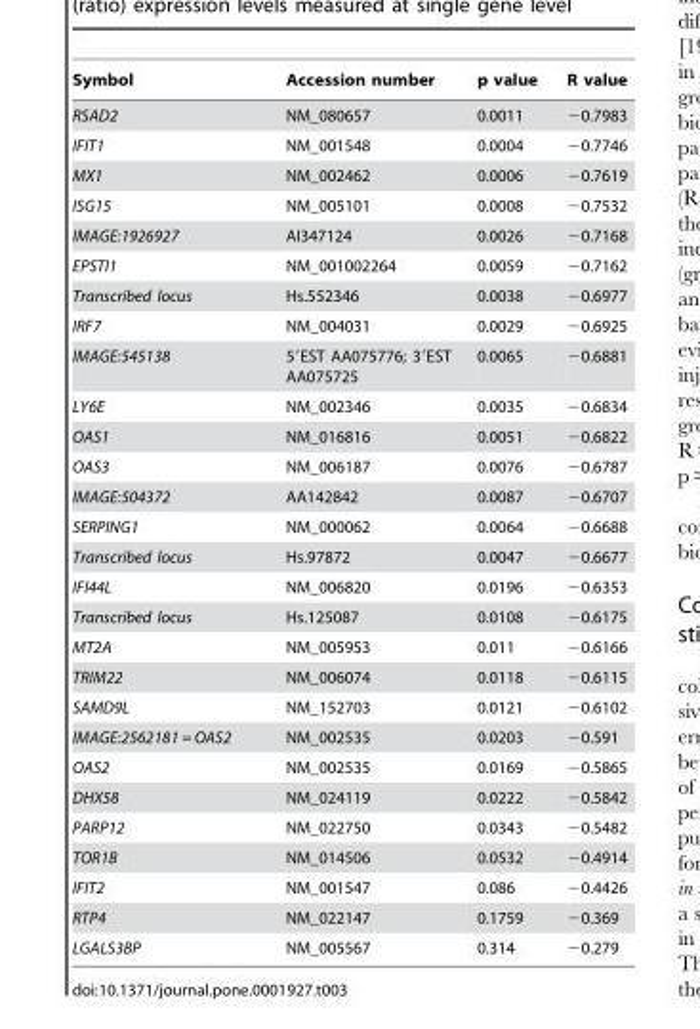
<table><thead><tr><td>Symbol</td><td>Accession number</td><td>p value</td><td>R value</td></tr></thead><tbody><tr><td>RSAD2</td><td>NM_080657</td><td>0.0011</td><td>−0.7983</td></tr><tr><td>IFIT1</td><td>NM_001548</td><td>0.0004</td><td>−0.7746</td></tr><tr><td>MX1</td><td>NM_002462</td><td>0.0006</td><td>−0.7619</td></tr><tr><td>ISG15</td><td>NM_005101</td><td>0.0008</td><td>−0.7532</td></tr><tr><td>IMAGE:1926927</td><td>AI347124</td><td>0.0026</td><td>−0.7168</td></tr><tr><td>EPSTI1</td><td>NM_001002264</td><td>0.0059</td><td>−0.7162</td></tr><tr><td>Transcribed locus</td><td>Hs.552346</td><td>0.0038</td><td>−0.6977</td></tr><tr><td>IRF7</td><td>NM_004031</td><td>0.0029</td><td>−0.6925</td></tr><tr><td>IMAGE:545138</td><td>5′EST AA075776; 3′EST AA075725</td><td>0.0065</td><td>−0.6881</td></tr><tr><td>LY6E</td><td>NM_002346</td><td>0.0035</td><td>−0.6834</td></tr><tr><td>OAS1</td><td>NM_016816</td><td>0.0051</td><td>−0.6822</td></tr><tr><td>OAS3</td><td>NM_006187</td><td>0.0076</td><td>−0.6787</td></tr><tr><td>IMAGE:504372</td><td>AA142842</td><td>0.0087</td><td>−0.6707</td></tr><tr><td>SERPING1</td><td>NM_000062</td><td>0.0064</td><td>−0.6688</td></tr><tr><td>Transcribed locus</td><td>Hs.97872</td><td>0.0047</td><td>−0.6677</td></tr><tr><td>IFI44L</td><td>NM_006820</td><td>0.0196</td><td>−0.6353</td></tr><tr><td>Transcribed locus</td><td>Hs.125087</td><td>0.0108</td><td>−0.6175</td></tr><tr><td>MT2A</td><td>NM_005953</td><td>0.011</td><td>−0.6166</td></tr><tr><td>TRIM22</td><td>NM_006074</td><td>0.0118</td><td>−0.6115</td></tr><tr><td>SAMD9L</td><td>NM_152703</td><td>0.0121</td><td>−0.6102</td></tr><tr><td>IMAGE:2562181 = OAS2</td><td>NM_002535</td><td>0.0203</td><td>−0.591</td></tr><tr><td>OAS2</td><td>NM_002535</td><td>0.0169</td><td>−0.5865</td></tr><tr><td>DHX58</td><td>NM_024119</td><td>0.0222</td><td>−0.5842</td></tr><tr><td>PARP12</td><td>NM_022750</td><td>0.0343</td><td>−0.5482</td></tr><tr><td>TOR1B</td><td>NM_014506</td><td>0.0532</td><td>−0.4914</td></tr><tr><td>IFIT2</td><td>NM_001547</td><td>0.086</td><td>−0.4426</td></tr><tr><td>RTP4</td><td>NM_022147</td><td>0.1759</td><td>−0.369</td></tr><tr><td>LGALS3BP</td><td>NM_005567</td><td>0.314</td><td>−0.279</td></tr></tbody></table>